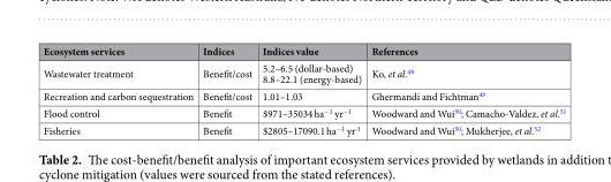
<table><thead><tr><td>Ecosystem services</td><td>Indices</td><td>Indices value</td><td>References</td></tr></thead><tbody><tr><td>Wastewater treatment</td><td>Benefit/cost</td><td>5.2–6.5 (dollar-based) 8.8–22.1 (energy-based)</td><td>Ko, et al.<sup>48</sup></td></tr><tr><td>Recreation and carbon sequestration</td><td>Benefit/cost</td><td>1.01–1.03</td><td>Ghermandi and Fichtman<sup>49</sup></td></tr><tr><td>Flood control</td><td>Benefit</td><td>$971–35034 ha<sup>−1</sup> yr<sup>−1</sup></td><td>Woodward and Wui<sup>50</sup>; Camacho-Valdez, et al.<sup>51</sup></td></tr><tr><td>Fisheries</td><td>Benefit</td><td>$2805–17090.1 ha<sup>−1</sup> yr<sup>-1</sup></td><td>Woodward and Wui<sup>50</sup>; Mukherjee, et al.<sup>52</sup></td></tr></tbody></table>